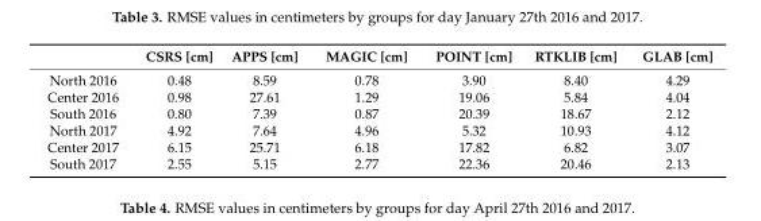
<table><thead><tr><td></td><td>CSRS [cm]</td><td>APPS [cm]</td><td>MAGIC [cm]</td><td>POINT [cm]</td><td>RTKLIB [cm]</td><td>GLAB [cm]</td></tr></thead><tbody><tr><td>North 2016</td><td>0.48</td><td>8.59</td><td>0.78</td><td>3.90</td><td>8.40</td><td>4.29</td></tr><tr><td>Center 2016</td><td>0.98</td><td>27.61</td><td>1.29</td><td>19.06</td><td>5.84</td><td>4.04</td></tr><tr><td>South 2016</td><td>0.80</td><td>7.39</td><td>0.87</td><td>20.39</td><td>18.67</td><td>2.12</td></tr><tr><td>North 2017</td><td>4.92</td><td>7.64</td><td>4.96</td><td>5.32</td><td>10.93</td><td>4.12</td></tr><tr><td>Center 2017</td><td>6.15</td><td>25.71</td><td>6.18</td><td>17.82</td><td>6.82</td><td>3.07</td></tr><tr><td>South 2017</td><td>2.55</td><td>5.15</td><td>2.77</td><td>22.36</td><td>20.46</td><td>2.13</td></tr></tbody></table>